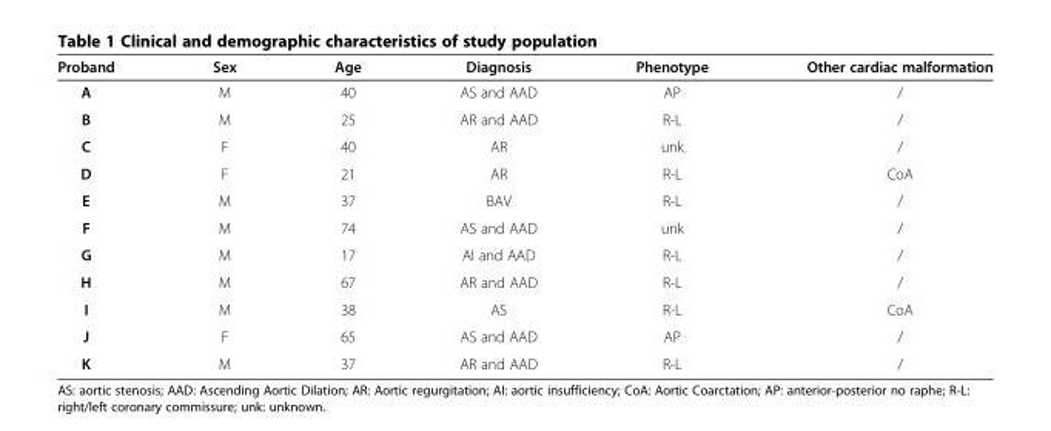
<table><thead><tr><td>Proband</td><td>Sex</td><td>Age</td><td>Diagnosis</td><td>Phenotype</td><td>Other cardiac malformation</td></tr></thead><tbody><tr><td>A</td><td>M</td><td>40</td><td>AS and AAD</td><td>AP</td><td>/</td></tr><tr><td>B</td><td>M</td><td>25</td><td>AR and AAD</td><td>R-L</td><td>/</td></tr><tr><td>C</td><td>F</td><td>40</td><td>AR</td><td>unk</td><td>/</td></tr><tr><td>D</td><td>F</td><td>21</td><td>AR</td><td>R-L</td><td>CoA</td></tr><tr><td>E</td><td>M</td><td>37</td><td>BAV</td><td>R-L</td><td>/</td></tr><tr><td>F</td><td>M</td><td>74</td><td>AS and AAD</td><td>unk</td><td>/</td></tr><tr><td>G</td><td>M</td><td>17</td><td>AI and AAD</td><td>R-L</td><td>/</td></tr><tr><td>H</td><td>M</td><td>67</td><td>AR and AAD</td><td>R-L</td><td>/</td></tr><tr><td>I</td><td>M</td><td>38</td><td>AS</td><td>R-L</td><td>CoA</td></tr><tr><td>J</td><td>F</td><td>65</td><td>AS and AAD</td><td>AP</td><td>/</td></tr><tr><td>K</td><td>M</td><td>37</td><td>AR and AAD</td><td>R-L</td><td>/</td></tr></tbody></table>